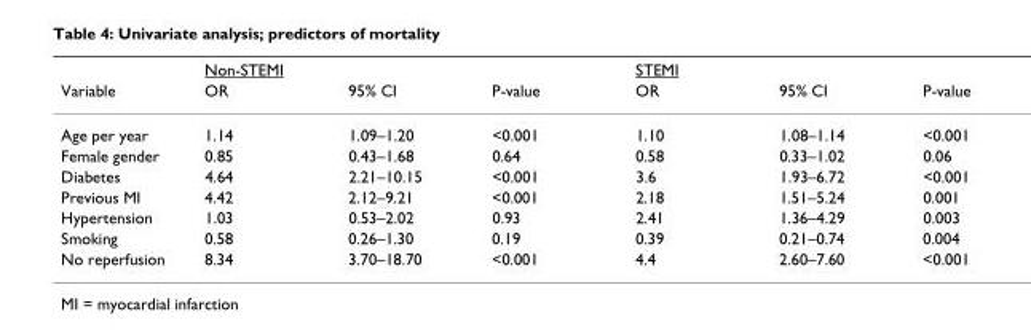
<table><thead><tr><td rowspan="2">Variable</td><td colspan="3">Non-STEMI</td><td colspan="3">STEMI</td></tr><tr><td>OR</td><td>95% CI</td><td>P-value</td><td>OR</td><td>95% CI</td><td>P-value</td></tr></thead><tbody><tr><td>Age per year</td><td>1.14</td><td>1.09–1.20</td><td>&lt;0.001</td><td>1.10</td><td>1.08–1.14</td><td>&lt;0.001</td></tr><tr><td>Female gender</td><td>0.85</td><td>0.43–1.68</td><td>0.64</td><td>0.58</td><td>0.33–1.02</td><td>0.06</td></tr><tr><td>Diabetes</td><td>4.64</td><td>2.21–10.15</td><td>&lt;0.001</td><td>3.6</td><td>1.93–6.72</td><td>&lt;0.001</td></tr><tr><td>Previous MI</td><td>4.42</td><td>2.12–9.21</td><td>&lt;0.001</td><td>2.18</td><td>1.51–5.24</td><td>0.001</td></tr><tr><td>Hypertension</td><td>1.03</td><td>0.53–2.02</td><td>0.93</td><td>2.41</td><td>1.36–4.29</td><td>0.003</td></tr><tr><td>Smoking</td><td>0.58</td><td>0.26–1.30</td><td>0.19</td><td>0.39</td><td>0.21–0.74</td><td>0.004</td></tr><tr><td>No reperfusion</td><td>8.34</td><td>3.70–18.70</td><td>&lt;0.001</td><td>4.4</td><td>2.60–7.60</td><td>&lt;0.001</td></tr></tbody></table>